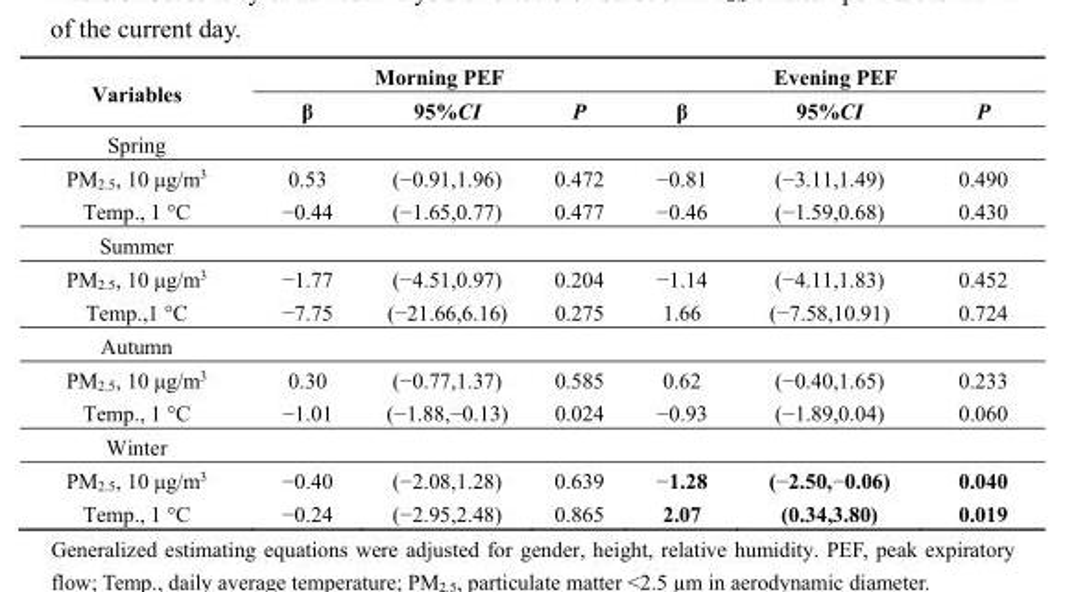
<table><thead><tr><td rowspan="2">Variables</td><td colspan="3">Morning PEF</td><td colspan="3">Evening PEF</td></tr><tr><td>β</td><td>95%CI</td><td>P</td><td>β</td><td>95%CI</td><td>P</td></tr></thead><tbody><tr><td colspan="7">Spring</td></tr><tr><td>PM<sub>2.5</sub>, 10 μg/m<sup>3</sup></td><td>0.53</td><td>(−0.91,1.96)</td><td>0.472</td><td>−0.81</td><td>(−3.11,1.49)</td><td>0.490</td></tr><tr><td>Temp., 1 °C</td><td>−0.44</td><td>(−1.65,0.77)</td><td>0.477</td><td>−0.46</td><td>(−1.59,0.68)</td><td>0.430</td></tr><tr><td colspan="7">Summer</td></tr><tr><td>PM<sub>2.5</sub>, 10 μg/m<sup>3</sup></td><td>−1.77</td><td>(−4.51,0.97)</td><td>0.204</td><td>−1.14</td><td>(−4.11,1.83)</td><td>0.452</td></tr><tr><td>Temp.,1 °C</td><td>−7.75</td><td>(−21.66,6.16)</td><td>0.275</td><td>1.66</td><td>(−7.58,10.91)</td><td>0.724</td></tr><tr><td colspan="7">Autumn</td></tr><tr><td>PM<sub>2.5</sub>, 10 μg/m<sup>3</sup></td><td>0.30</td><td>(−0.77,1.37)</td><td>0.585</td><td>0.62</td><td>(−0.40,1.65)</td><td>0.233</td></tr><tr><td>Temp., 1 °C</td><td>−1.01</td><td>(−1.88,−0.13)</td><td>0.024</td><td>−0.93</td><td>(−1.89,0.04)</td><td>0.060</td></tr><tr><td colspan="7">Winter</td></tr><tr><td>PM<sub>2.5</sub>, 10 μg/m<sup>3</sup></td><td>−0.40</td><td>(−2.08,1.28)</td><td>0.639</td><td>−1.28</td><td>(−2.50,−0.06)</td><td>0.040</td></tr><tr><td>Temp., 1 °C</td><td>−0.24</td><td>(−2.95,2.48)</td><td>0.865</td><td>2.07</td><td>(0.34,3.80)</td><td>0.019</td></tr></tbody></table>